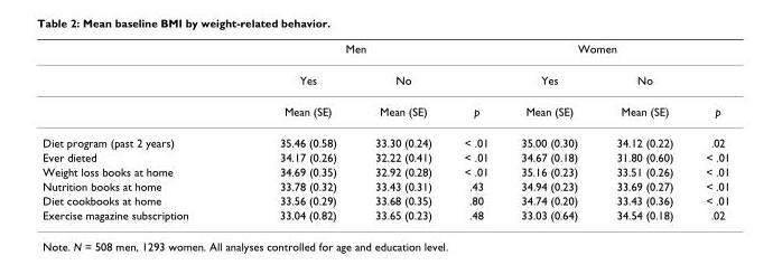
<table><thead><tr><td rowspan="2"></td><td colspan="2">Men</td><td rowspan="2"></td><td colspan="2">Women</td><td rowspan="2"></td></tr><tr><td>Yes</td><td>No</td><td>Yes</td><td>No</td></tr></thead><tbody><tr><td></td><td>Mean (SE)</td><td>Mean (SE)</td><td>p</td><td>Mean (SE)</td><td>Mean (SE)</td><td>p</td></tr><tr><td>Diet program (past 2 years)</td><td>35.46 (0.58)</td><td>33.30 (0.24)</td><td>&lt; .01</td><td>35.00 (0.30)</td><td>34.12 (0.22)</td><td>.02</td></tr><tr><td>Ever dieted</td><td>34.17 (0.26)</td><td>32.22 (0.41)</td><td>&lt; .01</td><td>34.67 (0.18)</td><td>31.80 (0.60)</td><td>&lt; .01</td></tr><tr><td>Weight loss books at home</td><td>34.69 (0.35)</td><td>32.92 (0.28)</td><td>&lt; .01</td><td>35.16 (0.23)</td><td>33.51 (0.26)</td><td>&lt; .01</td></tr><tr><td>Nutrition books at home</td><td>33.78 (0.32)</td><td>33.43 (0.31)</td><td>.43</td><td>34.94 (0.23)</td><td>33.69 (0.27)</td><td>&lt; .01</td></tr><tr><td>Diet cookbooks at home</td><td>33.56 (0.29)</td><td>33.68 (0.35)</td><td>.80</td><td>34.74 (0.20)</td><td>33.43 (0.36)</td><td>&lt; .01</td></tr><tr><td>Exercise magazine subscription</td><td>33.04 (0.82)</td><td>33.65 (0.23)</td><td>.48</td><td>33.03 (0.64)</td><td>34.54 (0.18)</td><td>.02</td></tr></tbody></table>